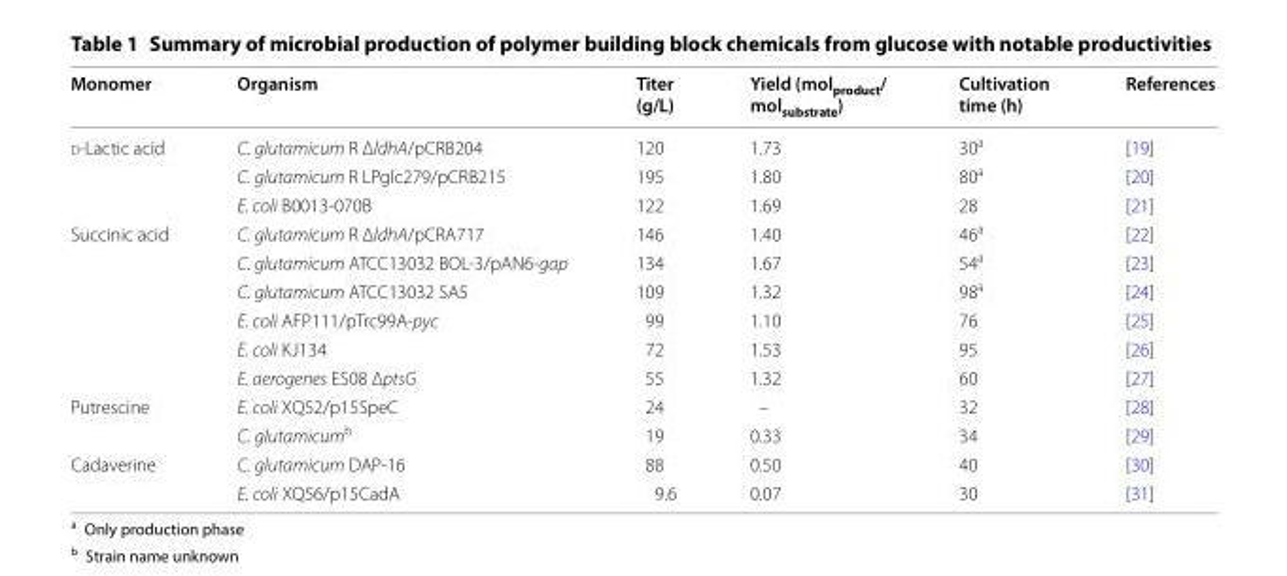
<table><thead><tr><td>Monomer</td><td>Organism</td><td>Titer (g/L)</td><td>Yield (mol<sub>product</sub>/ mol<sub>substrate</sub>)</td><td>Cultivation time (h)</td><td>References</td></tr></thead><tbody><tr><td rowspan="3">d-Lactic acid</td><td>C. glutamicum R ΔldhA/pCRB204</td><td>120</td><td>1.73</td><td>30<sup>a</sup></td><td>[19]</td></tr><tr><td>C. glutamicum R LPglc279/pCRB215</td><td>195</td><td>1.80</td><td>80<sup>a</sup></td><td>[20]</td></tr><tr><td>E. coli B0013-070B</td><td>122</td><td>1.69</td><td>28</td><td>[21]</td></tr><tr><td rowspan="6">Succinic acid</td><td>C. glutamicum R ΔldhA/pCRA717</td><td>146</td><td>1.40</td><td>46<sup>a</sup></td><td>[22]</td></tr><tr><td>C. glutamicum ATCC13032 BOL-3/pAN6-gap</td><td>134</td><td>1.67</td><td>54<sup>a</sup></td><td>[23]</td></tr><tr><td>C. glutamicum ATCC13032 SA5</td><td>109</td><td>1.32</td><td>98<sup>a</sup></td><td>[24]</td></tr><tr><td>E. coli AFP111/pTrc99A-pyc</td><td>99</td><td>1.10</td><td>76</td><td>[25]</td></tr><tr><td>E. coli KJ134</td><td>72</td><td>1.53</td><td>95</td><td>[26]</td></tr><tr><td>E. aerogenes ES08 ΔptsG</td><td>55</td><td>1.32</td><td>60</td><td>[27]</td></tr><tr><td rowspan="2">Putrescine</td><td>E. coli XQ52/p15SpeC</td><td>24</td><td>–</td><td>32</td><td>[28]</td></tr><tr><td>C. glutamicum<sup>b</sup></td><td>19</td><td>0.33</td><td>34</td><td>[29]</td></tr><tr><td rowspan="2">Cadaverine</td><td>C. glutamicum DAP-16</td><td>88</td><td>0.50</td><td>40</td><td>[30]</td></tr><tr><td>E. coli XQ56/p15CadA</td><td>9.6</td><td>0.07</td><td>30</td><td>[31]</td></tr></tbody></table>